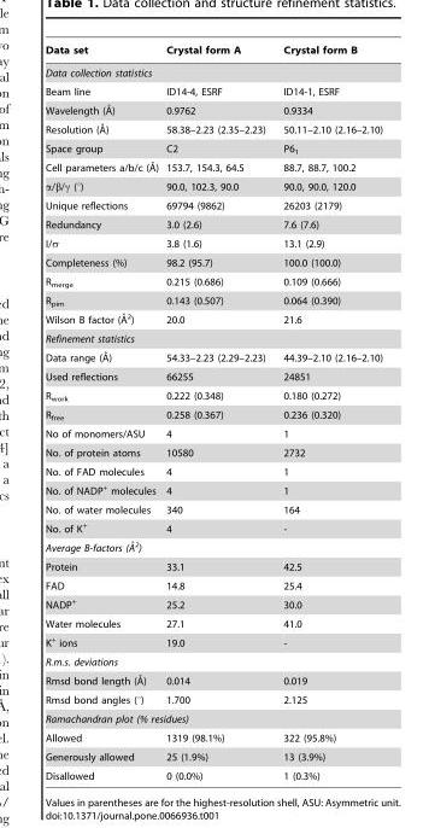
<table><thead><tr><td>Data set</td><td>Crystal form A</td><td>Crystal form B</td></tr></thead><tbody><tr><td colspan="3">Data collection statistics</td></tr><tr><td>Beam line</td><td>ID14-4, ESRF</td><td>ID14-1, ESRF</td></tr><tr><td>Wavelength (A˚)</td><td>0.9762</td><td>0.9334</td></tr><tr><td>Resolution (A˚)</td><td>58.38–2.23 (2.35–2.23)</td><td>50.11–2.10 (2.16–2.10)</td></tr><tr><td>Space group</td><td>C2</td><td>P6<sub>1</sub></td></tr><tr><td>Cell parameters a/b/c (A˚)</td><td>153.7, 154.3, 64.5</td><td>88.7, 88.7, 100.2</td></tr><tr><td>α/β/γ (°)</td><td>90.0, 102.3, 90.0</td><td>90.0, 90.0, 120.0</td></tr><tr><td>Unique reflections</td><td>69794 (9862)</td><td>26203 (2179)</td></tr><tr><td>Redundancy</td><td>3.0 (2.6)</td><td>7.6 (7.6)</td></tr><tr><td>I/σ</td><td>3.8 (1.6)</td><td>13.1 (2.9)</td></tr><tr><td>Completeness (%)</td><td>98.2 (95.7)</td><td>100.0 (100.0)</td></tr><tr><td>R<sub>merge</sub></td><td>0.215 (0.686)</td><td>0.109 (0.666)</td></tr><tr><td>R<sub>pim</sub></td><td>0.143 (0.507)</td><td>0.064 (0.390)</td></tr><tr><td>Wilson B factor (A˚ 2)</td><td>20.0</td><td>21.6</td></tr><tr><td colspan="3">Refinement statistics</td></tr><tr><td>Data range (A˚)</td><td>54.33–2.23 (2.29–2.23)</td><td>44.39–2.10 (2.16–2.10)</td></tr><tr><td>Used reflections</td><td>66255</td><td>24851</td></tr><tr><td>R<sub>work</sub></td><td>0.222 (0.348)</td><td>0.180 (0.272)</td></tr><tr><td>R<sub>free</sub></td><td>0.258 (0.367)</td><td>0.236 (0.320)</td></tr><tr><td>No of monomers/ASU</td><td>4</td><td>1</td></tr><tr><td>No. of protein atoms</td><td>10580</td><td>2732</td></tr><tr><td>No. of FAD molecules</td><td>4</td><td>1</td></tr><tr><td>No. of NADP<sup>+</sup> molecules</td><td>4</td><td>1</td></tr><tr><td>No. of water molecules</td><td>340</td><td>164</td></tr><tr><td>No. of K<sup>+</sup></td><td>4</td><td>-</td></tr><tr><td colspan="3">Average B-factors (A˚2)</td></tr><tr><td>Protein</td><td>33.1</td><td>42.5</td></tr><tr><td>FAD</td><td>14.8</td><td>25.4</td></tr><tr><td>NADP<sup>+</sup></td><td>25.2</td><td>30.0</td></tr><tr><td>Water molecules</td><td>27.1</td><td>41.0</td></tr><tr><td>K<sup>+</sup> ions</td><td>19.0</td><td>-</td></tr><tr><td colspan="3">R.m.s. deviations</td></tr><tr><td>Rmsd bond length (A˚)</td><td>0.014</td><td>0.019</td></tr><tr><td>Rmsd bond angles (°)</td><td>1.700</td><td>2.125</td></tr><tr><td colspan="3">Ramachandran plot (% residues)</td></tr><tr><td>Allowed</td><td>1319 (98.1%)</td><td>322 (95.8%)</td></tr><tr><td>Generously allowed</td><td>25 (1.9%)</td><td>13 (3.9%)</td></tr><tr><td>Disallowed</td><td>0 (0.0%)</td><td>1 (0.3%)</td></tr></tbody></table>